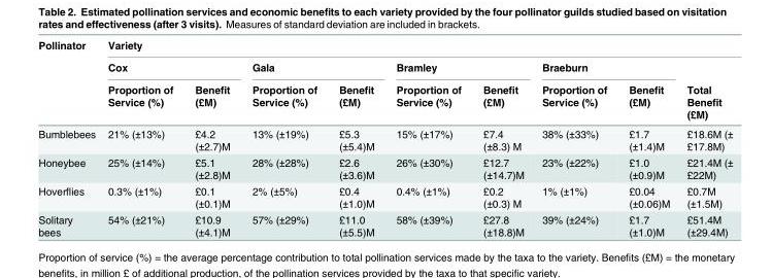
<table><thead><tr><td rowspan="3">Pollinator</td><td colspan="9">Variety</td></tr><tr><td colspan="2">Cox</td><td colspan="2">Gala</td><td colspan="2">Bramley</td><td colspan="2">Braeburn</td><td rowspan="2">Total Benefit (£M)</td></tr><tr><td>Proportion of Service (%)</td><td>Benefit (£M)</td><td>Proportion of Service (%)</td><td>Benefit (£M)</td><td>Proportion of Service (%)</td><td>Benefit (£M)</td><td>Proportion of Service (%)</td><td>Benefit (£M)</td></tr></thead><tbody><tr><td>Bumblebees</td><td>21% (±13%)</td><td>£4.2 (±2.7)M</td><td>13% (±19%)</td><td>£5.3 (±5.4)M</td><td>15% (±17%)</td><td>£7.4 (±8.3) M</td><td>38% (±33%)</td><td>£1.7 (±1.4)M</td><td>£18.6M (± £17.8M)</td></tr><tr><td>Honeybee</td><td>25% (±14%)</td><td>£5.1 (±2.8)M</td><td>28% (±28%)</td><td>£2.6 (±3.6)M</td><td>26% (±30%)</td><td>£12.7 (±14.7)M</td><td>23% (±22%)</td><td>£1.0 (±0.9)M</td><td>£21.4M (± £22M)</td></tr><tr><td>Hoverflies</td><td>0.3% (±1%)</td><td>£0.1 (±0.1)M</td><td>2% (±5%)</td><td>£0.4 (±1.0)M</td><td>0.4% (±1%)</td><td>£0.2 (±0.3) M</td><td>1% (±1%)</td><td>£0.04 (±0.06)M</td><td>£0.7M (±1.5M)</td></tr><tr><td>Solitary bees</td><td>54% (±21%)</td><td>£10.9 (±4.1)M</td><td>57% (±29%)</td><td>£11.0 (±5.5)M</td><td>58% (±39%)</td><td>£27.8 (±18.8)M</td><td>39% (±24%)</td><td>£1.7 (±1.0)M</td><td>£51.4M (±29.4M)</td></tr></tbody></table>